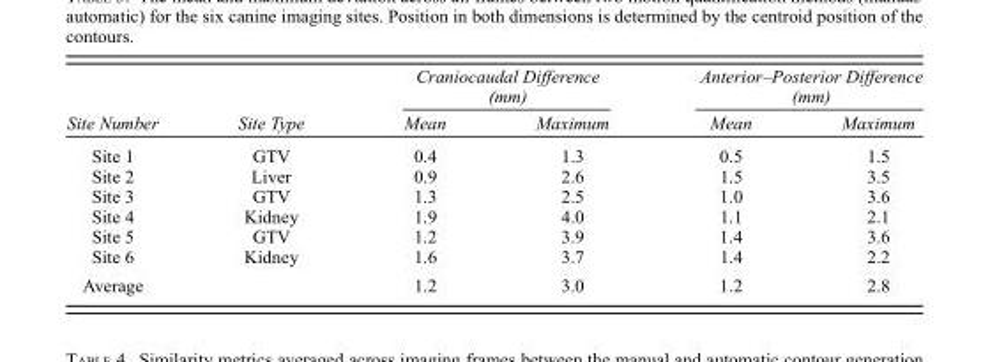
<table><thead><tr><td rowspan="2">Site Number</td><td rowspan="2">Site Type</td><td colspan="2">Craniocaudal Difference (mm)</td><td colspan="2">Anterior–Posterior Difference (mm)</td></tr><tr><td>Mean</td><td>Maximum</td><td>Mean</td><td>Maximum</td></tr></thead><tbody><tr><td>Site 1</td><td>GTV</td><td>0.4</td><td>1.3</td><td>0.5</td><td>1.5</td></tr><tr><td>Site 2</td><td>Liver</td><td>0.9</td><td>2.6</td><td>1.5</td><td>3.5</td></tr><tr><td>Site 3</td><td>GTV</td><td>1.3</td><td>2.5</td><td>1.0</td><td>3.6</td></tr><tr><td>Site 4</td><td>Kidney</td><td>1.9</td><td>4.0</td><td>1.1</td><td>2.1</td></tr><tr><td>Site 5</td><td>GTV</td><td>1.2</td><td>3.9</td><td>1.4</td><td>3.6</td></tr><tr><td>Site 6</td><td>Kidney</td><td>1.6</td><td>3.7</td><td>1.4</td><td>2.2</td></tr><tr><td>Average</td><td></td><td>1.2</td><td>3.0</td><td>1.2</td><td>2.8</td></tr></tbody></table>